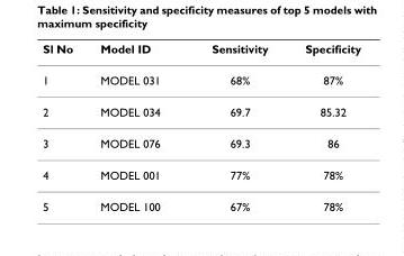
<table><thead><tr><td>Sl No</td><td>Model ID</td><td>Sensitivity</td><td>Specificity</td></tr></thead><tbody><tr><td>1</td><td>MODEL 031</td><td>68%</td><td>87%</td></tr><tr><td>2</td><td>MODEL 034</td><td>69.7</td><td>85.32</td></tr><tr><td>3</td><td>MODEL 076</td><td>69.3</td><td>86</td></tr><tr><td>4</td><td>MODEL 001</td><td>77%</td><td>78%</td></tr><tr><td>5</td><td>MODEL 100</td><td>67%</td><td>78%</td></tr></tbody></table>